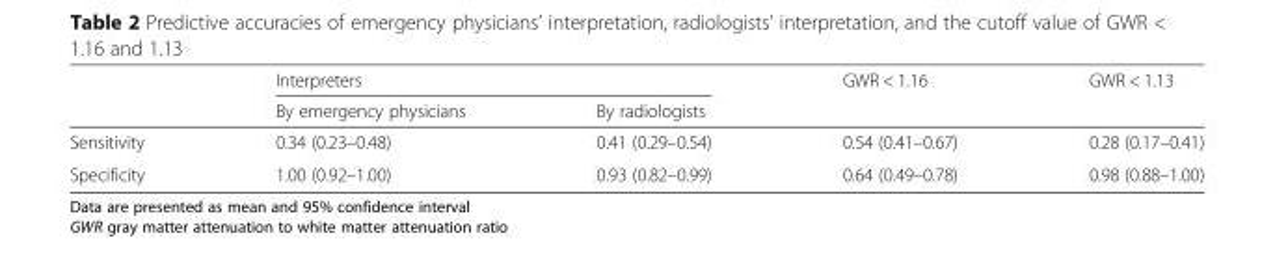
<table><thead><tr><td rowspan="2"></td><td colspan="2">Interpreters</td><td rowspan="2">GWR &lt; 1.16</td><td rowspan="2">GWR &lt; 1.13</td></tr><tr><td>By emergency physicians</td><td>By radiologists</td></tr></thead><tbody><tr><td>Sensitivity</td><td>0.34 (0.23–0.48)</td><td>0.41 (0.29–0.54)</td><td>0.54 (0.41–0.67)</td><td>0.28 (0.17–0.41)</td></tr><tr><td>Specificity</td><td>1.00 (0.92–1.00)</td><td>0.93 (0.82–0.99)</td><td>0.64 (0.49–0.78)</td><td>0.98 (0.88–1.00)</td></tr></tbody></table>